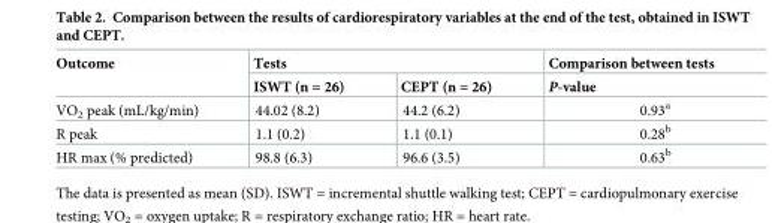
<table><thead><tr><td rowspan="2">Outcome</td><td colspan="2">Tests</td><td rowspan="2">Comparison between tests P-value</td></tr><tr><td>ISWT (n = 26)</td><td>CEPT (n = 26)</td></tr></thead><tbody><tr><td>VO<sub>2</sub> peak (mL/kg/min)</td><td>44.02 (8.2)</td><td>44.2 (6.2)</td><td>0.93<sup>a</sup></td></tr><tr><td>R peak</td><td>1.1 (0.2)</td><td>1.1 (0.1)</td><td>0.28<sup>b</sup></td></tr><tr><td>HR max (% predicted)</td><td>98.8 (6.3)</td><td>96.6 (3.5)</td><td>0.63<sup>b</sup></td></tr></tbody></table>